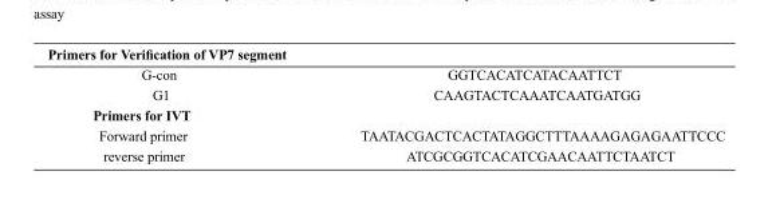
<table><thead><tr><td colspan="2">Primers for Verification of VP7 segment</td></tr><tr><td>G-con</td><td>GGTCACATCATACAATTCT</td></tr></thead><tbody><tr><td>G1</td><td>CAAGTACTCAAATCAATGATGG</td></tr><tr><td colspan="2">Primers for IVT</td></tr><tr><td>Forward primer</td><td>TAATACGACTCACTATAGGCTTTAAAAGAGAGAATTCCC</td></tr><tr><td>reverse primer</td><td>ATCGCGGTCACATCGAACAATTCTAATCT</td></tr></tbody></table>